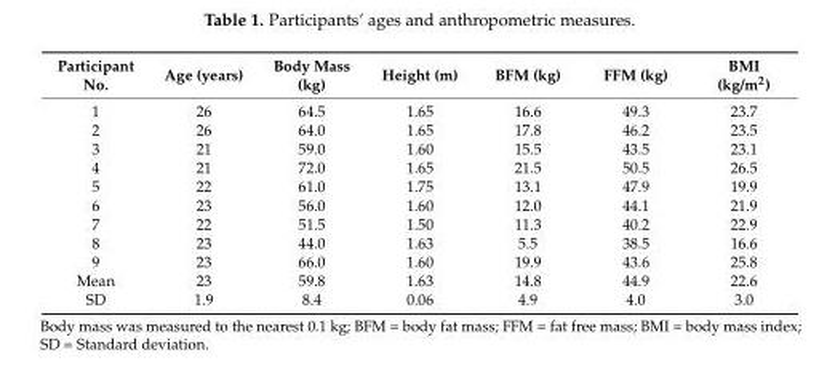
<table><thead><tr><td>Participant No.</td><td>Age (years)</td><td>Body Mass (kg)</td><td>Height (m)</td><td>BFM (kg)</td><td>FFM (kg)</td><td>BMI (kg/m<sup>2</sup>)</td></tr></thead><tbody><tr><td>1</td><td>26</td><td>64.5</td><td>1.65</td><td>16.6</td><td>49.3</td><td>23.7</td></tr><tr><td>2</td><td>26</td><td>64.0</td><td>1.65</td><td>17.8</td><td>46.2</td><td>23.5</td></tr><tr><td>3</td><td>21</td><td>59.0</td><td>1.60</td><td>15.5</td><td>43.5</td><td>23.1</td></tr><tr><td>4</td><td>21</td><td>72.0</td><td>1.65</td><td>21.5</td><td>50.5</td><td>26.5</td></tr><tr><td>5</td><td>22</td><td>61.0</td><td>1.75</td><td>13.1</td><td>47.9</td><td>19.9</td></tr><tr><td>6</td><td>23</td><td>56.0</td><td>1.60</td><td>12.0</td><td>44.1</td><td>21.9</td></tr><tr><td>7</td><td>22</td><td>51.5</td><td>1.50</td><td>11.3</td><td>40.2</td><td>22.9</td></tr><tr><td>8</td><td>23</td><td>44.0</td><td>1.63</td><td>5.5</td><td>38.5</td><td>16.6</td></tr><tr><td>9</td><td>23</td><td>66.0</td><td>1.60</td><td>19.9</td><td>43.6</td><td>25.8</td></tr><tr><td>Mean</td><td>23</td><td>59.8</td><td>1.63</td><td>14.8</td><td>44.9</td><td>22.6</td></tr><tr><td>SD</td><td>1.9</td><td>8.4</td><td>0.06</td><td>4.9</td><td>4.0</td><td>3.0</td></tr></tbody></table>